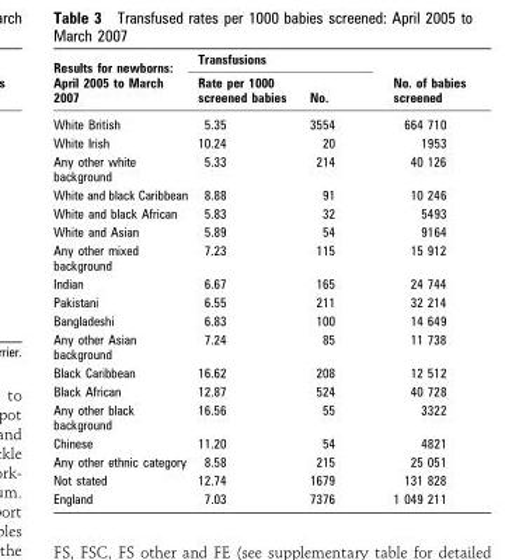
<table><thead><tr><td rowspan="2">Results for newborns: April 2005 to March 2007</td><td colspan="2">Transfusions</td><td rowspan="2">No. of babies screened</td></tr><tr><td>Rate per 1000 screened babies</td><td>No.</td></tr></thead><tbody><tr><td>White British</td><td>5.35</td><td>3554</td><td>664 710</td></tr><tr><td>White Irish</td><td>10.24</td><td>20</td><td>1953</td></tr><tr><td>Any other white background</td><td>5.33</td><td>214</td><td>40 126</td></tr><tr><td>White and black Caribbean</td><td>8.88</td><td>91</td><td>10 246</td></tr><tr><td>White and black African</td><td>5.83</td><td>32</td><td>5493</td></tr><tr><td>White and Asian</td><td>5.89</td><td>54</td><td>9164</td></tr><tr><td>Any other mixed background</td><td>7.23</td><td>115</td><td>15 912</td></tr><tr><td>Indian</td><td>6.67</td><td>165</td><td>24 744</td></tr><tr><td>Pakistani</td><td>6.55</td><td>211</td><td>32 214</td></tr><tr><td>Bangladeshi</td><td>6.83</td><td>100</td><td>14 649</td></tr><tr><td>Any other Asian background</td><td>7.24</td><td>85</td><td>11 738</td></tr><tr><td>Black Caribbean</td><td>16.62</td><td>208</td><td>12 512</td></tr><tr><td>Black African</td><td>12.87</td><td>524</td><td>40 728</td></tr><tr><td>Any other black background</td><td>16.56</td><td>55</td><td>3322</td></tr><tr><td>Chinese</td><td>11.20</td><td>54</td><td>4821</td></tr><tr><td>Any other ethnic category</td><td>8.58</td><td>215</td><td>25 051</td></tr><tr><td>Not stated</td><td>12.74</td><td>1679</td><td>131 828</td></tr><tr><td>England</td><td>7.03</td><td>7376</td><td>1 049 211</td></tr></tbody></table>